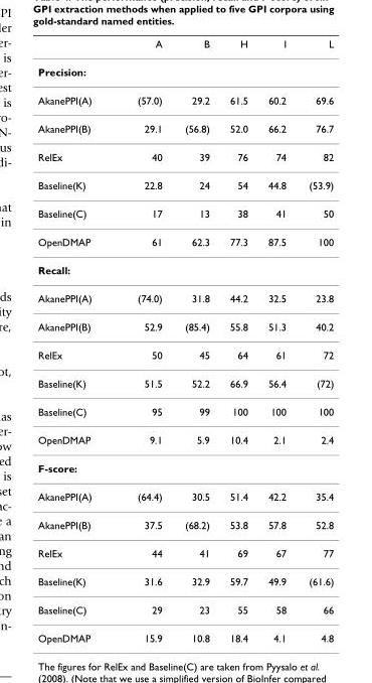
<table><thead><tr><td></td><td>A</td><td>B</td><td>H</td><td>I</td><td>L</td></tr></thead><tbody><tr><td colspan="6">Precision:</td></tr><tr><td>AkanePPI(A)</td><td>(57.0)</td><td>29.2</td><td>61.5</td><td>60.2</td><td>69.6</td></tr><tr><td>AkanePPI(B)</td><td>29.1</td><td>(56.8)</td><td>52.0</td><td>66.2</td><td>76.7</td></tr><tr><td>RelEx</td><td>40</td><td>39</td><td>76</td><td>74</td><td>82</td></tr><tr><td>Baseline(K)</td><td>22.8</td><td>24</td><td>54</td><td>44.8</td><td>(53.9)</td></tr><tr><td>Baseline(C)</td><td>17</td><td>13</td><td>38</td><td>41</td><td>50</td></tr><tr><td>OpenDMAP</td><td>61</td><td>62.3</td><td>77.3</td><td>87.5</td><td>100</td></tr><tr><td colspan="6">Recall:</td></tr><tr><td>AkanePPI(A)</td><td>(74.0)</td><td>31.8</td><td>44.2</td><td>32.5</td><td>23.8</td></tr><tr><td>AkanePPI(B)</td><td>52.9</td><td>(85.4)</td><td>55.8</td><td>51.3</td><td>40.2</td></tr><tr><td>RelEx</td><td>50</td><td>45</td><td>64</td><td>61</td><td>72</td></tr><tr><td>Baseline(K)</td><td>51.5</td><td>52.2</td><td>66.9</td><td>56.4</td><td>(72)</td></tr><tr><td>Baseline(C)</td><td>95</td><td>99</td><td>100</td><td>100</td><td>100</td></tr><tr><td>OpenDMAP</td><td>9.1</td><td>5.9</td><td>10.4</td><td>2.1</td><td>2.4</td></tr><tr><td colspan="6">F-score:</td></tr><tr><td>AkanePPI(A)</td><td>(64.4)</td><td>30.5</td><td>51.4</td><td>42.2</td><td>35.4</td></tr><tr><td>AkanePPI(B)</td><td>37.5</td><td>(68.2)</td><td>53.8</td><td>57.8</td><td>52.8</td></tr><tr><td>RelEx</td><td>44</td><td>41</td><td>69</td><td>67</td><td>77</td></tr><tr><td>Baseline(K)</td><td>31.6</td><td>32.9</td><td>59.7</td><td>49.9</td><td>(61.6)</td></tr><tr><td>Baseline(C)</td><td>29</td><td>23</td><td>55</td><td>58</td><td>66</td></tr><tr><td>OpenDMAP</td><td>15.9</td><td>10.8</td><td>18.4</td><td>4.1</td><td>4.8</td></tr></tbody></table>